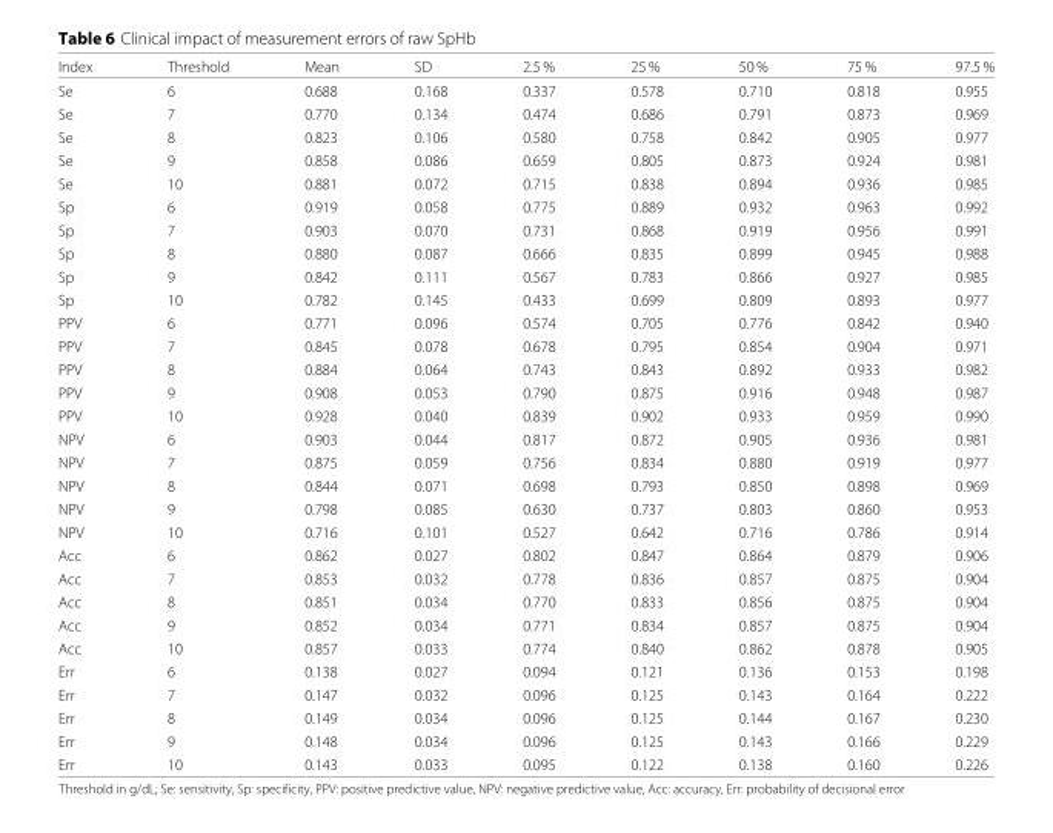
<table><thead><tr><td>Index</td><td>Threshold</td><td>Mean</td><td>SD</td><td>2.5 %</td><td>25 %</td><td>50 %</td><td>75 %</td><td>97.5 %</td></tr></thead><tbody><tr><td>Se</td><td>6</td><td>0.688</td><td>0.168</td><td>0.337</td><td>0.578</td><td>0.710</td><td>0.818</td><td>0.955</td></tr><tr><td>Se</td><td>7</td><td>0.770</td><td>0.134</td><td>0.474</td><td>0.686</td><td>0.791</td><td>0.873</td><td>0.969</td></tr><tr><td>Se</td><td>8</td><td>0.823</td><td>0.106</td><td>0.580</td><td>0.758</td><td>0.842</td><td>0.905</td><td>0.977</td></tr><tr><td>Se</td><td>9</td><td>0.858</td><td>0.086</td><td>0.659</td><td>0.805</td><td>0.873</td><td>0.924</td><td>0.981</td></tr><tr><td>Se</td><td>10</td><td>0.881</td><td>0.072</td><td>0.715</td><td>0.838</td><td>0.894</td><td>0.936</td><td>0.985</td></tr><tr><td>Sp</td><td>6</td><td>0.919</td><td>0.058</td><td>0.775</td><td>0.889</td><td>0.932</td><td>0.963</td><td>0.992</td></tr><tr><td>Sp</td><td>7</td><td>0.903</td><td>0.070</td><td>0.731</td><td>0.868</td><td>0.919</td><td>0.956</td><td>0.991</td></tr><tr><td>Sp</td><td>8</td><td>0.880</td><td>0.087</td><td>0.666</td><td>0.835</td><td>0.899</td><td>0.945</td><td>0.988</td></tr><tr><td>Sp</td><td>9</td><td>0.842</td><td>0.111</td><td>0.567</td><td>0.783</td><td>0.866</td><td>0.927</td><td>0.985</td></tr><tr><td>Sp</td><td>10</td><td>0.782</td><td>0.145</td><td>0.433</td><td>0.699</td><td>0.809</td><td>0.893</td><td>0.977</td></tr><tr><td>PPV</td><td>6</td><td>0.771</td><td>0.096</td><td>0.574</td><td>0.705</td><td>0.776</td><td>0.842</td><td>0.940</td></tr><tr><td>PPV</td><td>7</td><td>0.845</td><td>0.078</td><td>0.678</td><td>0.795</td><td>0.854</td><td>0.904</td><td>0.971</td></tr><tr><td>PPV</td><td>8</td><td>0.884</td><td>0.064</td><td>0.743</td><td>0.843</td><td>0.892</td><td>0.933</td><td>0.982</td></tr><tr><td>PPV</td><td>9</td><td>0.908</td><td>0.053</td><td>0.790</td><td>0.875</td><td>0.916</td><td>0.948</td><td>0.987</td></tr><tr><td>PPV</td><td>10</td><td>0.928</td><td>0.040</td><td>0.839</td><td>0.902</td><td>0.933</td><td>0.959</td><td>0.990</td></tr><tr><td>NPV</td><td>6</td><td>0.903</td><td>0.044</td><td>0.817</td><td>0.872</td><td>0.905</td><td>0.936</td><td>0.981</td></tr><tr><td>NPV</td><td>7</td><td>0.875</td><td>0.059</td><td>0.756</td><td>0.834</td><td>0.880</td><td>0.919</td><td>0.977</td></tr><tr><td>NPV</td><td>8</td><td>0.844</td><td>0.071</td><td>0.698</td><td>0.793</td><td>0.850</td><td>0.898</td><td>0.969</td></tr><tr><td>NPV</td><td>9</td><td>0.798</td><td>0.085</td><td>0.630</td><td>0.737</td><td>0.803</td><td>0.860</td><td>0.953</td></tr><tr><td>NPV</td><td>10</td><td>0.716</td><td>0.101</td><td>0.527</td><td>0.642</td><td>0.716</td><td>0.786</td><td>0.914</td></tr><tr><td>Acc</td><td>6</td><td>0.862</td><td>0.027</td><td>0.802</td><td>0.847</td><td>0.864</td><td>0.879</td><td>0.906</td></tr><tr><td>Acc</td><td>7</td><td>0.853</td><td>0.032</td><td>0.778</td><td>0.836</td><td>0.857</td><td>0.875</td><td>0.904</td></tr><tr><td>Acc</td><td>8</td><td>0.851</td><td>0.034</td><td>0.770</td><td>0.833</td><td>0.856</td><td>0.875</td><td>0.904</td></tr><tr><td>Acc</td><td>9</td><td>0.852</td><td>0.034</td><td>0.771</td><td>0.834</td><td>0.857</td><td>0.875</td><td>0.904</td></tr><tr><td>Acc</td><td>10</td><td>0.857</td><td>0.033</td><td>0.774</td><td>0.840</td><td>0.862</td><td>0.878</td><td>0.905</td></tr><tr><td>Err</td><td>6</td><td>0.138</td><td>0.027</td><td>0.094</td><td>0.121</td><td>0.136</td><td>0.153</td><td>0.198</td></tr><tr><td>Err</td><td>7</td><td>0.147</td><td>0.032</td><td>0.096</td><td>0.125</td><td>0.143</td><td>0.164</td><td>0.222</td></tr><tr><td>Err</td><td>8</td><td>0.149</td><td>0.034</td><td>0.096</td><td>0.125</td><td>0.144</td><td>0.167</td><td>0.230</td></tr><tr><td>Err</td><td>9</td><td>0.148</td><td>0.034</td><td>0.096</td><td>0.125</td><td>0.143</td><td>0.166</td><td>0.229</td></tr><tr><td>Err</td><td>10</td><td>0.143</td><td>0.033</td><td>0.095</td><td>0.122</td><td>0.138</td><td>0.160</td><td>0.226</td></tr></tbody></table>